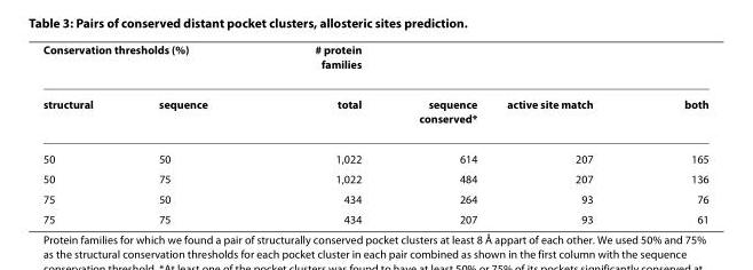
<table><thead><tr><td colspan="2">Conservation thresholds (%)</td><td rowspan="2"># protein families total</td><td rowspan="2">sequence conserved*</td><td rowspan="2">active site match</td><td rowspan="2">both</td></tr><tr><td>structural</td><td>sequence</td></tr></thead><tbody><tr><td>50</td><td>50</td><td>1,022</td><td>614</td><td>207</td><td>165</td></tr><tr><td>50</td><td>75</td><td>1,022</td><td>484</td><td>207</td><td>136</td></tr><tr><td>75</td><td>50</td><td>434</td><td>264</td><td>93</td><td>76</td></tr><tr><td>75</td><td>75</td><td>434</td><td>207</td><td>93</td><td>61</td></tr></tbody></table>